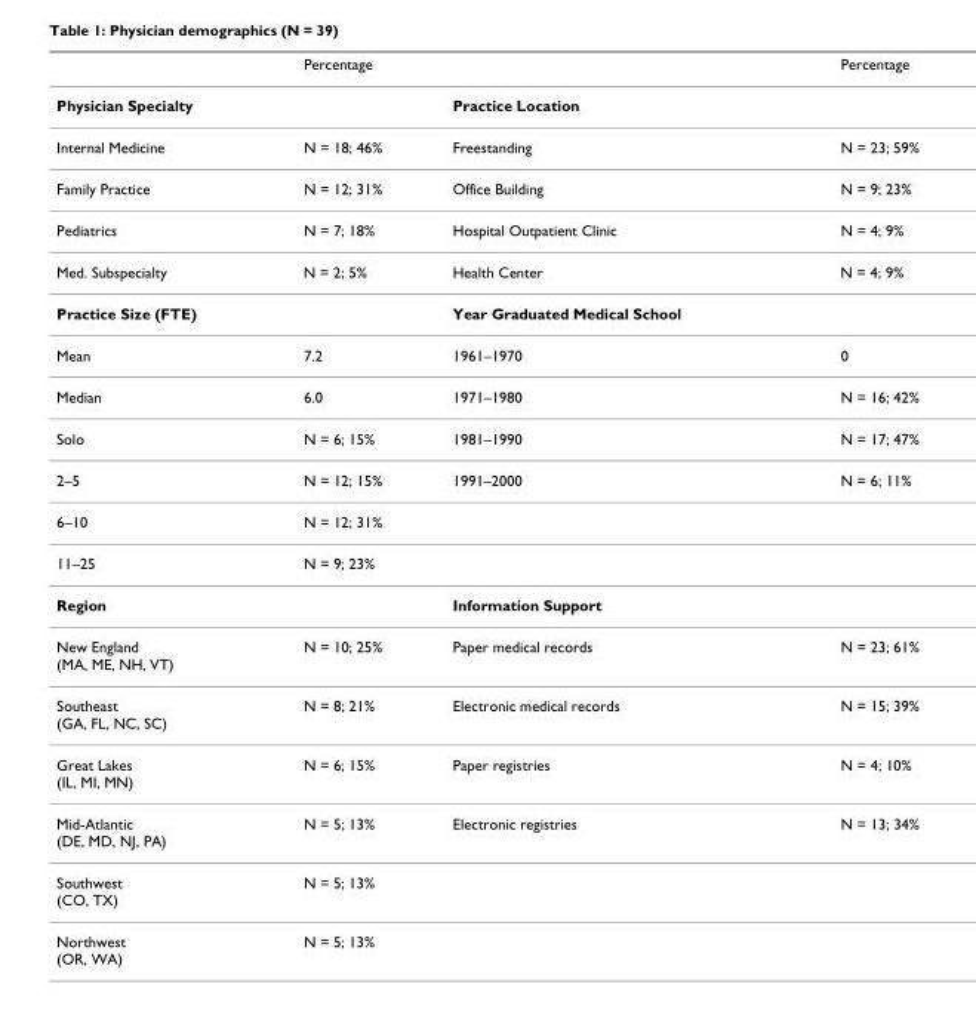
<table><thead><tr><td></td><td>Percentage</td><td></td><td>Percentage</td></tr></thead><tbody><tr><td>Physician Specialty</td><td></td><td>Practice Location</td><td></td></tr><tr><td>Internal Medicine</td><td>N = 18; 46%</td><td>Freestanding</td><td>N = 23; 59%</td></tr><tr><td>Family Practice</td><td>N = 12; 31%</td><td>Office Building</td><td>N = 9; 23%</td></tr><tr><td>Pediatrics</td><td>N = 7; 18%</td><td>Hospital Outpatient Clinic</td><td>N = 4; 9%</td></tr><tr><td>Med. Subspecialty</td><td>N = 2; 5%</td><td>Health Center</td><td>N = 4; 9%</td></tr><tr><td>Practice Size (FTE)</td><td></td><td>Year Graduated Medical School</td><td></td></tr><tr><td>Mean</td><td>7.2</td><td>1961–1970</td><td>0</td></tr><tr><td>Median</td><td>6.0</td><td>1971–1980</td><td>N = 16; 42%</td></tr><tr><td>Solo</td><td>N = 6; 15%</td><td>1981–1990</td><td>N = 17; 47%</td></tr><tr><td>2–5</td><td>N = 12; 15%</td><td>1991–2000</td><td>N = 6; 11%</td></tr><tr><td>6–10</td><td>N = 12; 31%</td><td></td><td></td></tr><tr><td>11–25</td><td>N = 9; 23%</td><td></td><td></td></tr><tr><td>Region</td><td></td><td>Information Support</td><td></td></tr><tr><td>New England (MA, ME, NH, VT)</td><td>N = 10; 25%</td><td>Paper medical records</td><td>N = 23; 61%</td></tr><tr><td>Southeast (GA, FL, NC, SC)</td><td>N = 8; 21%</td><td>Electronic medical records</td><td>N = 15; 39%</td></tr><tr><td>Great Lakes (IL, MI, MN)</td><td>N = 6; 15%</td><td>Paper registries</td><td>N = 4; 10%</td></tr><tr><td>Mid-Atlantic (DE, MD, NJ, PA)</td><td>N = 5; 13%</td><td>Electronic registries</td><td>N = 13; 34%</td></tr><tr><td>Southwest (CO, TX)</td><td>N = 5; 13%</td><td></td><td></td></tr><tr><td>Northwest (OR, WA)</td><td>N = 5; 13%</td><td></td><td></td></tr></tbody></table>